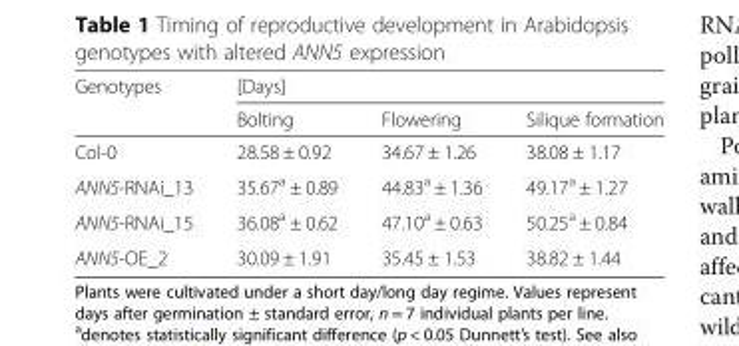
<table><thead><tr><td rowspan="2">Genotypes</td><td colspan="3">[Days]</td></tr><tr><td>Bolting</td><td>Flowering</td><td>Silique formation</td></tr></thead><tbody><tr><td>Col-0</td><td>28.58 ± 0.92</td><td>34.67 ± 1.26</td><td>38.08 ± 1.17</td></tr><tr><td>ANN5-RNAi_13</td><td>35.67<sup>a</sup> ± 0.89</td><td>44.83<sup>a</sup> ± 1.36</td><td>49.17<sup>a</sup> ± 1.27</td></tr><tr><td>ANN5-RNAi_15</td><td>36.08<sup>a</sup> ± 0.62</td><td>47.10<sup>a</sup> ± 0.63</td><td>50.25<sup>a</sup> ± 0.84</td></tr><tr><td>ANN5-OE_2</td><td>30.09 ± 1.91</td><td>35.45 ± 1.53</td><td>38.82 ± 1.44</td></tr></tbody></table>